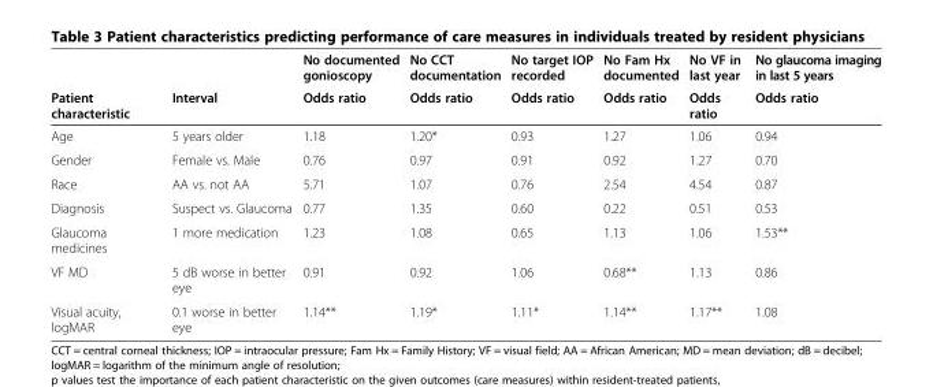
<table><thead><tr><td rowspan="2">Patient characteristic</td><td rowspan="2">Interval</td><td rowspan="2">No documented gonioscopy Odds ratio</td><td rowspan="2">No CCT documentation Odds ratio</td><td rowspan="2">No target IOP recorded Odds ratio</td><td rowspan="2">No Fam Hx documented Odds ratio</td><td rowspan="2">No VF in last year Odds ratio</td><td rowspan="2">No glaucoma imaging in last 5 years Odds ratio</td></tr><tr></tr></thead><tbody><tr><td>Age</td><td>5 years older</td><td>1.18</td><td>1.20*</td><td>0.93</td><td>1.27</td><td>1.06</td><td>0.94</td></tr><tr><td>Gender</td><td>Female vs. Male</td><td>0.76</td><td>0.97</td><td>0.91</td><td>0.92</td><td>1.27</td><td>0.70</td></tr><tr><td>Race</td><td>AA vs. not AA</td><td>5.71</td><td>1.07</td><td>0.76</td><td>2.54</td><td>4.54</td><td>0.87</td></tr><tr><td>Diagnosis</td><td>Suspect vs. Glaucoma</td><td>0.77</td><td>1.35</td><td>0.60</td><td>0.22</td><td>0.51</td><td>0.53</td></tr><tr><td>Glaucoma medicines</td><td>1 more medication</td><td>1.23</td><td>1.08</td><td>0.65</td><td>1.13</td><td>1.06</td><td>1.53**</td></tr><tr><td>VF MD</td><td>5 dB worse in better eye</td><td>0.91</td><td>0.92</td><td>1.06</td><td>0.68**</td><td>1.13</td><td>0.86</td></tr><tr><td>Visual acuity, logMAR</td><td>0.1 worse in better eye</td><td>1.14**</td><td>1.19*</td><td>1.11*</td><td>1.14**</td><td>1.17**</td><td>1.08</td></tr></tbody></table>